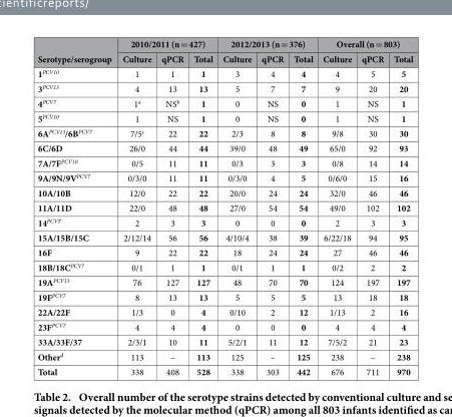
<table><thead><tr><td rowspan="2">Serotype/serogroup</td><td colspan="3">2010/2011 (n = 427)</td><td colspan="3">2012/2013 (n = 376)</td><td colspan="3">Overall (n = 803)</td></tr><tr><td>Culture</td><td>qPCR</td><td>Total</td><td>Culture</td><td>qPCR</td><td>Total</td><td>Culture</td><td>qPCR</td><td>Total</td></tr></thead><tbody><tr><td>1PCV10</td><td>1</td><td>1</td><td>1</td><td>3</td><td>4</td><td>4</td><td>4</td><td>5</td><td>5</td></tr><tr><td>3PCV13</td><td>4</td><td>13</td><td>13</td><td>5</td><td>7</td><td>7</td><td>9</td><td>20</td><td>20</td></tr><tr><td>4PCV7</td><td>1<sup>a</sup></td><td>NS<sup>b</sup></td><td>1</td><td>0</td><td>NS</td><td>0</td><td>1</td><td>NS</td><td>1</td></tr><tr><td>5PCV10</td><td>1</td><td>NS</td><td>1</td><td>0</td><td>NS</td><td>0</td><td>1</td><td>NS</td><td>1</td></tr><tr><td>6APCV13/6BPCV7</td><td>7/5<sup>c</sup></td><td>22</td><td>22</td><td>2/3</td><td>8</td><td>8</td><td>9/8</td><td>30</td><td>30</td></tr><tr><td>6C/6D</td><td>26/0</td><td>44</td><td>44</td><td>39/0</td><td>48</td><td>49</td><td>65/0</td><td>92</td><td>93</td></tr><tr><td>7A/7FPCV10</td><td>0/5</td><td>11</td><td>11</td><td>0/3</td><td>3</td><td>3</td><td>0/8</td><td>14</td><td>14</td></tr><tr><td>9A/9N/9VPCV7</td><td>0/3/0</td><td>11</td><td>11</td><td>0/3/0</td><td>4</td><td>5</td><td>0/6/0</td><td>15</td><td>16</td></tr><tr><td>10A/10B</td><td>12/0</td><td>22</td><td>22</td><td>20/0</td><td>24</td><td>24</td><td>32/0</td><td>46</td><td>46</td></tr><tr><td>11A/11D</td><td>22/0</td><td>48</td><td>48</td><td>27/0</td><td>54</td><td>54</td><td>49/0</td><td>102</td><td>102</td></tr><tr><td>14PCV7</td><td>2</td><td>3</td><td>3</td><td>0</td><td>0</td><td>0</td><td>2</td><td>3</td><td>3</td></tr><tr><td>15A/15B/15C</td><td>2/12/14</td><td>56</td><td>56</td><td>4/10/4</td><td>38</td><td>39</td><td>6/22/18</td><td>94</td><td>95</td></tr><tr><td>16F</td><td>9</td><td>22</td><td>22</td><td>18</td><td>24</td><td>24</td><td>27</td><td>46</td><td>46</td></tr><tr><td>18B/18CPCV7</td><td>0/1</td><td>1</td><td>1</td><td>0/1</td><td>1</td><td>1</td><td>0/2</td><td>2</td><td>2</td></tr><tr><td>19APCV13</td><td>76</td><td>127</td><td>127</td><td>48</td><td>70</td><td>70</td><td>124</td><td>197</td><td>197</td></tr><tr><td>19FPCV7</td><td>8</td><td>13</td><td>13</td><td>5</td><td>5</td><td>5</td><td>13</td><td>18</td><td>18</td></tr><tr><td>22A/22F</td><td>1/3</td><td>0</td><td>4</td><td>0/10</td><td>2</td><td>12</td><td>1/13</td><td>2</td><td>16</td></tr><tr><td>23FPCV7</td><td>4</td><td>4</td><td>4</td><td>0</td><td>0</td><td>0</td><td>4</td><td>4</td><td>4</td></tr><tr><td>33A/33F/37</td><td>2/3/1</td><td>10</td><td>11</td><td>5/2/1</td><td>11</td><td>12</td><td>7/5/2</td><td>21</td><td>23</td></tr><tr><td>Other<sup>d</sup></td><td>113</td><td>–</td><td>113</td><td>125</td><td>–</td><td>125</td><td>238</td><td>–</td><td>238</td></tr><tr><td>Total</td><td>338</td><td>408</td><td>528</td><td>338</td><td>303</td><td>442</td><td>676</td><td>711</td><td>970</td></tr></tbody></table>